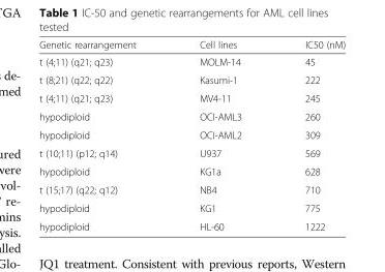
<table><thead><tr><td>Genetic rearrangement</td><td>Cell lines</td><td>IC50 (nM)</td></tr></thead><tbody><tr><td>t (4;11) (q21; q23)</td><td>MOLM-14</td><td>45</td></tr><tr><td>t (8;21) (q22; q22)</td><td>Kasumi-1</td><td>222</td></tr><tr><td>t (4;11) (q21; q23)</td><td>MV4-11</td><td>245</td></tr><tr><td>hypodiploid</td><td>OCI-AML3</td><td>260</td></tr><tr><td>hypodiploid</td><td>OCI-AML2</td><td>309</td></tr><tr><td>t (10;11) (p12; q14)</td><td>U937</td><td>569</td></tr><tr><td>hypodiploid</td><td>KG1a</td><td>628</td></tr><tr><td>t (15;17) (q22; q12)</td><td>NB4</td><td>710</td></tr><tr><td>hypodiploid</td><td>KG1</td><td>775</td></tr><tr><td>hypodiploid</td><td>HL-60</td><td>1222</td></tr></tbody></table>